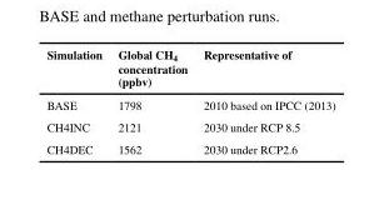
<table><thead><tr><td>Simulation</td><td>Global CH<sub>4</sub> concentration (ppbv)</td><td>Representative of</td></tr></thead><tbody><tr><td>BASE</td><td>1798</td><td>2010 based on IPCC (2013)</td></tr><tr><td>CH4INC</td><td>2121</td><td>2030 under RCP 8.5</td></tr><tr><td>CH4DEC</td><td>1562</td><td>2030 under RCP2.6</td></tr></tbody></table>